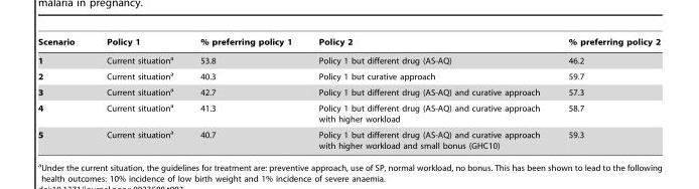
<table><thead><tr><td>Scenario</td><td>Policy 1</td><td>% preferring policy 1</td><td>Policy 2</td><td>% preferring policy 2</td></tr></thead><tbody><tr><td>1</td><td>Current situation<sup>a</sup></td><td>53.8</td><td>Policy 1 but different drug (AS-AQ)</td><td>46.2</td></tr><tr><td>2</td><td>Current situation<sup>a</sup></td><td>40.3</td><td>Policy 1 but curative approach</td><td>59.7</td></tr><tr><td>3</td><td>Current situation<sup>a</sup></td><td>42.7</td><td>Policy 1 but different drug (AS-AQ) and curative approach</td><td>57.3</td></tr><tr><td>4</td><td>Current situation<sup>a</sup></td><td>41.3</td><td>Policy 1 but different drug (AS-AQ) and curative approach with higher workload</td><td>58.7</td></tr><tr><td>5</td><td>Current situation<sup>a</sup></td><td>40.7</td><td>Policy 1 but different drug (AS-AQ) and curative approach with higher workload and small bonus (GHC10)</td><td>59.3</td></tr></tbody></table>